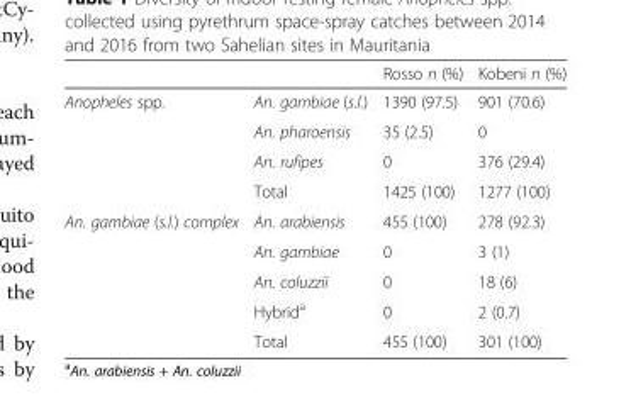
<table><thead><tr><td></td><td></td><td>Rosso n (%)</td><td>Kobeni n (%)</td></tr></thead><tbody><tr><td rowspan="4">Anopheles spp.</td><td>An. gambiae (s.l.)</td><td>1390 (97.5)</td><td>901 (70.6)</td></tr><tr><td>An. pharoensis</td><td>35 (2.5)</td><td>0</td></tr><tr><td>An. rufipes</td><td>0</td><td>376 (29.4)</td></tr><tr><td>Total</td><td>1425 (100)</td><td>1277 (100)</td></tr><tr><td rowspan="5">An. gambiae (s.l.) complex</td><td>An. arabiensis</td><td>455 (100)</td><td>278 (92.3)</td></tr><tr><td>An. gambiae</td><td>0</td><td>3 (1)</td></tr><tr><td>An. coluzzii</td><td>0</td><td>18 (6)</td></tr><tr><td>Hybrid<sup>a</sup></td><td>0</td><td>2 (0.7)</td></tr><tr><td>Total</td><td>455 (100)</td><td>301 (100)</td></tr></tbody></table>